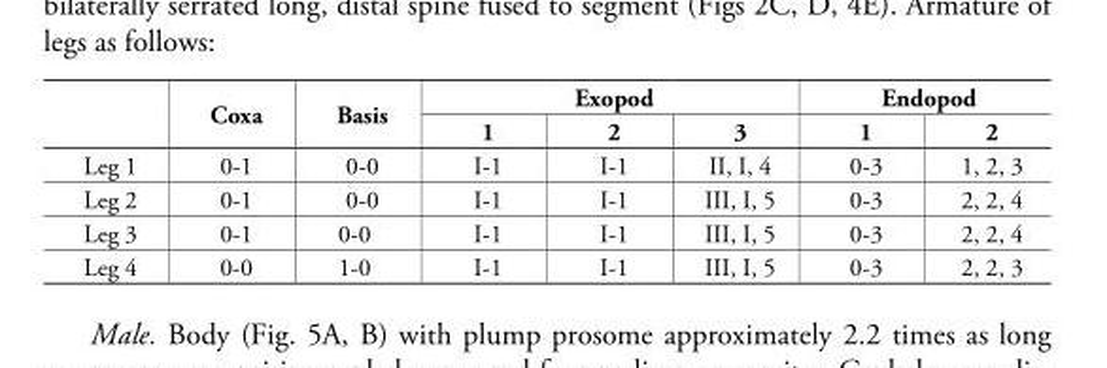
<table><thead><tr><td rowspan="2"></td><td rowspan="2">Coxa</td><td rowspan="2">Basis</td><td colspan="3">Exopod</td><td colspan="2">Endopod</td></tr><tr><td>1</td><td>2</td><td>3</td><td>1</td><td>2</td></tr></thead><tbody><tr><td>Leg 1</td><td>0-1</td><td>0-0</td><td>I-1</td><td>I-1</td><td>II, I, 4</td><td>0-3</td><td>1, 2, 3</td></tr><tr><td>Leg 2</td><td>0-1</td><td>0-0</td><td>I-1</td><td>I-1</td><td>III, I, 5</td><td>0-3</td><td>2, 2, 4</td></tr><tr><td>Leg 3</td><td>0-1</td><td>0-0</td><td>I-1</td><td>I-1</td><td>III, I, 5</td><td>0-3</td><td>2, 2, 4</td></tr><tr><td>Leg 4</td><td>0-0</td><td>1-0</td><td>I-1</td><td>I-1</td><td>III, I, 5</td><td>0-3</td><td>2, 2, 3</td></tr></tbody></table>